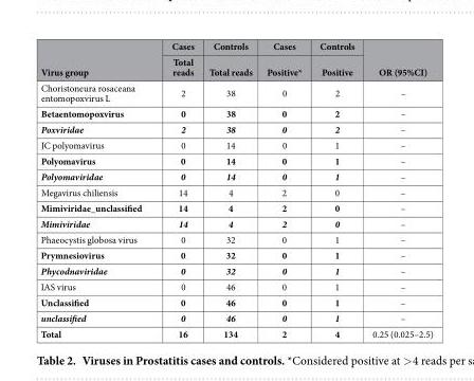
<table><thead><tr><td rowspan="2">Virus group</td><td rowspan="2">Cases Total reads</td><td rowspan="2">Controls Total reads</td><td rowspan="2">Cases Positive*</td><td rowspan="2">Controls Positive</td><td rowspan="2">OR (95%CI)</td></tr><tr></tr></thead><tbody><tr><td>Choristoneura rosaceana entomopoxvirus L</td><td>2</td><td>38</td><td>0</td><td>2</td><td>–</td></tr><tr><td>Betaentomopoxvirus</td><td>0</td><td>38</td><td>0</td><td>2</td><td>–</td></tr><tr><td>Poxviridae</td><td>2</td><td>38</td><td>0</td><td>2</td><td>–</td></tr><tr><td>JC polyomavirus</td><td>0</td><td>14</td><td>0</td><td>1</td><td>–</td></tr><tr><td>Polyomavirus</td><td>0</td><td>14</td><td>0</td><td>1</td><td>–</td></tr><tr><td>Polyomaviridae</td><td>0</td><td>14</td><td>0</td><td>1</td><td>–</td></tr><tr><td>Megavirus chiliensis</td><td>14</td><td>4</td><td>2</td><td>0</td><td>–</td></tr><tr><td>Mimiviridae_unclassified</td><td>14</td><td>4</td><td>2</td><td>0</td><td>–</td></tr><tr><td>Mimiviridae</td><td>14</td><td>4</td><td>2</td><td>0</td><td>–</td></tr><tr><td>Phaeocystis globosa virus</td><td>0</td><td>32</td><td>0</td><td>1</td><td>–</td></tr><tr><td>Prymnesiovirus</td><td>0</td><td>32</td><td>0</td><td>1</td><td>–</td></tr><tr><td>Phycodnaviridae</td><td>0</td><td>32</td><td>0</td><td>1</td><td>–</td></tr><tr><td>IAS virus</td><td>0</td><td>46</td><td>0</td><td>1</td><td>–</td></tr><tr><td>Unclassified</td><td>0</td><td>46</td><td>0</td><td>1</td><td>–</td></tr><tr><td>unclassified</td><td>0</td><td>46</td><td>0</td><td>1</td><td>–</td></tr><tr><td>Total</td><td>16</td><td>134</td><td>2</td><td>4</td><td>0.25 (0.025–2.5)</td></tr></tbody></table>